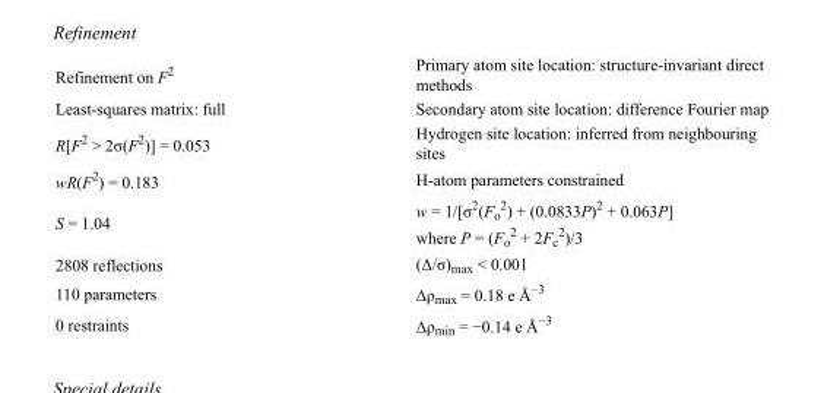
<table><tbody><tr><td>Refinement on F<sup>2</sup></td><td>Primary atom site location: structure-invariant direct methods</td></tr><tr><td>Least-squares matrix: full</td><td>Secondary atom site location: difference Fourier map</td></tr><tr><td>R[F<sup>2</sup> &gt; 2σ(F<sup>2</sup>)] = 0.053</td><td>Hydrogen site location: inferred from neighbouring sites</td></tr><tr><td>wR(F<sup>2</sup>) = 0.183</td><td>H-atom parameters constrained</td></tr><tr><td>S = 1.04</td><td>w = 1/[σ<sup>2</sup>(F<sub>o</sub> <sup>2</sup>) + (0.0833P)<sup>2</sup> + 0.063P] where P = (F<sub>o</sub> <sup>2</sup> + 2F<sub>c</sub> <sup>2</sup>)/3</td></tr><tr><td>2808 reflections</td><td>(Δ/σ)<sub>max</sub> &lt; 0.001</td></tr><tr><td>110 parameters</td><td>Δρ<sub>max</sub> = 0.18 e Å<sup>−3</sup></td></tr><tr><td>0 restraints</td><td>Δρ<sub>min</sub> = −0.14 e Å<sup>−3</sup></td></tr></tbody></table>